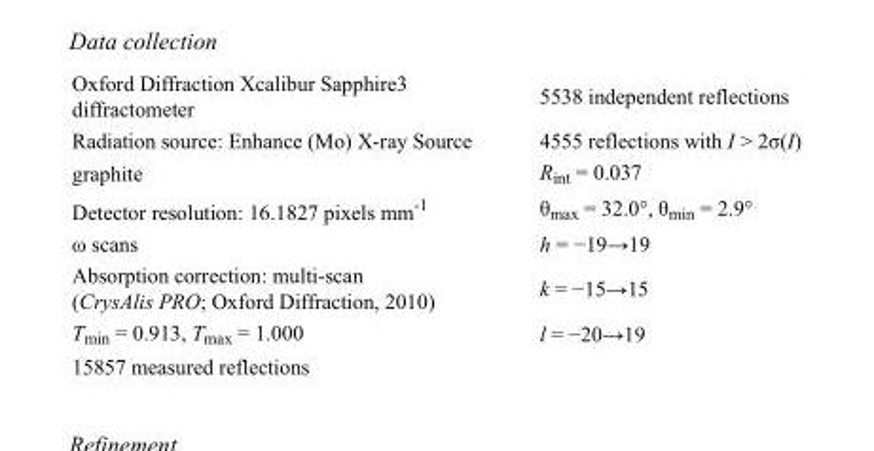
<table><tbody><tr><td>Oxford Diffraction Xcalibur Sapphire3 diffractometer</td><td>5538 independent reflections</td></tr><tr><td>Radiation source: Enhance (Mo) X-ray Source</td><td>4555 reflections with I &gt; 2σ(I)</td></tr><tr><td>graphite</td><td>R<sub>int</sub> = 0.037</td></tr><tr><td>Detector resolution: 16.1827 pixels mm<sup>-1</sup></td><td>θ<sub>max</sub> = 32.0°, θ<sub>min</sub> = 2.9°</td></tr><tr><td>ω scans</td><td>h = −19→19</td></tr><tr><td>Absorption correction: multi-scan (CrysAlis PRO; Oxford Diffraction, 2010)</td><td>k = −15→15</td></tr><tr><td>T<sub>min</sub> = 0.913, T<sub>max</sub> = 1.000</td><td>l = −20→19</td></tr><tr><td>15857 measured reflections</td><td></td></tr></tbody></table>